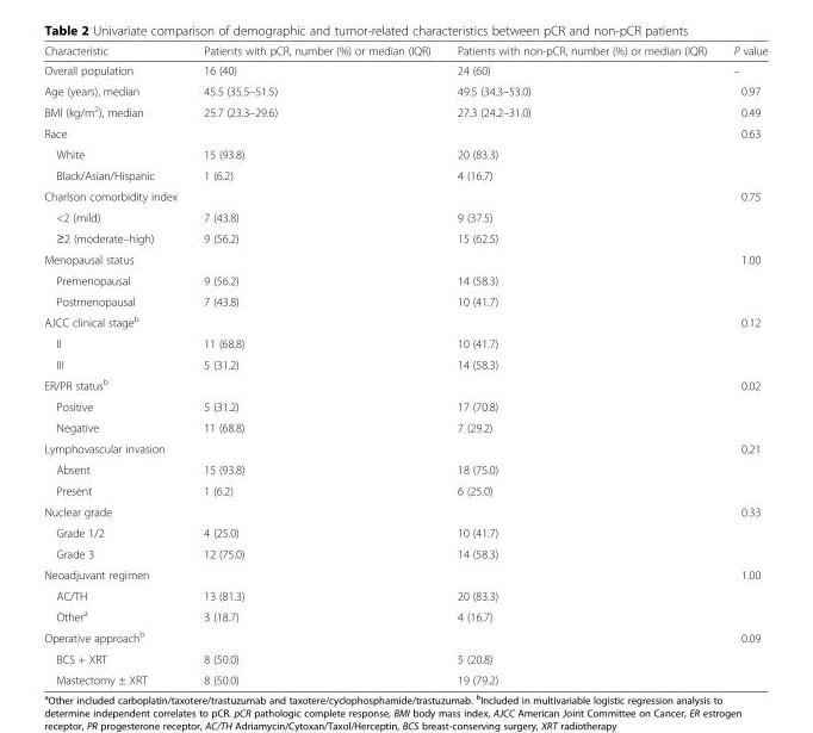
<table><thead><tr><td>Characteristic</td><td>Patients with pCR, number (%) or median (IQR)</td><td>Patients with non-pCR, number (%) or median (IQR)</td><td>P value</td></tr></thead><tbody><tr><td>Overall population</td><td>16 (40)</td><td>24 (60)</td><td>–</td></tr><tr><td>Age (years), median</td><td>45.5 (35.5–51.5)</td><td>49.5 (34.3–53.0)</td><td>0.97</td></tr><tr><td>BMI (kg/m<sup>2</sup>), median</td><td>25.7 (23.3–29.6)</td><td>27.3 (24.2–31.0)</td><td>0.49</td></tr><tr><td colspan="3">Race</td><td rowspan="3">0.63</td></tr><tr><td>White</td><td>15 (93.8)</td><td>20 (83.3)</td></tr><tr><td>Black/Asian/Hispanic</td><td>1 (6.2)</td><td>4 (16.7)</td></tr><tr><td colspan="3">Charlson comorbidity index</td><td rowspan="3">0.75</td></tr><tr><td>&lt;2 (mild)</td><td>7 (43.8)</td><td>9 (37.5)</td></tr><tr><td>≥2 (moderate–high)</td><td>9 (56.2)</td><td>15 (62.5)</td></tr><tr><td colspan="3">Menopausal status</td><td rowspan="3">1.00</td></tr><tr><td>Premenopausal</td><td>9 (56.2)</td><td>14 (58.3)</td></tr><tr><td>Postmenopausal</td><td>7 (43.8)</td><td>10 (41.7)</td></tr><tr><td colspan="3">AJCC clinical stage<sup>b</sup></td><td rowspan="3">0.12</td></tr><tr><td>II</td><td>11 (68.8)</td><td>10 (41.7)</td></tr><tr><td>III</td><td>5 (31.2)</td><td>14 (58.3)</td></tr><tr><td colspan="3">ER/PR status<sup>b</sup></td><td rowspan="3">0.02</td></tr><tr><td>Positive</td><td>5 (31.2)</td><td>17 (70.8)</td></tr><tr><td>Negative</td><td>11 (68.8)</td><td>7 (29.2)</td></tr><tr><td colspan="3">Lymphovascular invasion</td><td rowspan="3">0.21</td></tr><tr><td>Absent</td><td>15 (93.8)</td><td>18 (75.0)</td></tr><tr><td>Present</td><td>1 (6.2)</td><td>6 (25.0)</td></tr><tr><td colspan="3">Nuclear grade</td><td rowspan="3">0.33</td></tr><tr><td>Grade 1/2</td><td>4 (25.0)</td><td>10 (41.7)</td></tr><tr><td>Grade 3</td><td>12 (75.0)</td><td>14 (58.3)</td></tr><tr><td colspan="3">Neoadjuvant regimen</td><td rowspan="3">1.00</td></tr><tr><td>AC/TH</td><td>13 (81.3)</td><td>20 (83.3)</td></tr><tr><td>Other<sup>a</sup></td><td>3 (18.7)</td><td>4 (16.7)</td></tr><tr><td colspan="3">Operative approach<sup>b</sup></td><td rowspan="3">0.09</td></tr><tr><td>BCS + XRT</td><td>8 (50.0)</td><td>5 (20.8)</td></tr><tr><td>Mastectomy ± XRT</td><td>8 (50.0)</td><td>19 (79.2)</td></tr></tbody></table>